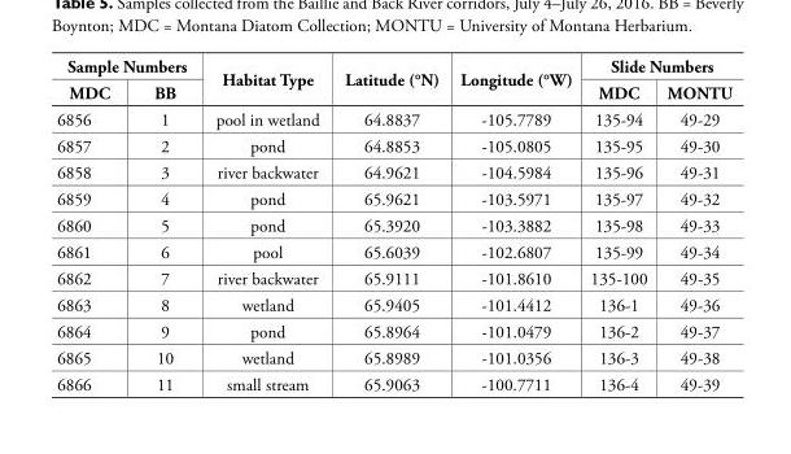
<table><thead><tr><td colspan="2">Sample Numbers</td><td rowspan="2">Habitat Type</td><td rowspan="2">Latitude (°N)</td><td rowspan="2">Longitude (°W)</td><td colspan="2">Slide Numbers</td></tr><tr><td>MDC</td><td>BB</td><td>MDC</td><td>MONTU</td></tr></thead><tbody><tr><td>6856</td><td>1</td><td>pool in wetland</td><td colspan="2">64.8837 -105.7789</td><td>135-94</td><td>49-29</td></tr><tr><td>6857</td><td>2</td><td>pond</td><td colspan="2">64.8853 -105.0805</td><td>135-95</td><td>49-30</td></tr><tr><td>6858</td><td>3</td><td>river backwater</td><td colspan="2">64.9621 -104.5984</td><td>135-96</td><td>49-31</td></tr><tr><td>6859</td><td>4</td><td>pond</td><td colspan="2">65.9621 -103.5971</td><td>135-97</td><td>49-32</td></tr><tr><td>6860</td><td>5</td><td>pond</td><td colspan="2">65.3920 -103.3882</td><td>135-98</td><td>49-33</td></tr><tr><td>6861</td><td>6</td><td>pool</td><td colspan="2">65.6039 -102.6807</td><td>135-99</td><td>49-34</td></tr><tr><td>6862</td><td>7</td><td>river backwater</td><td colspan="2">65.9111 -101.8610</td><td>135-100</td><td>49-35</td></tr><tr><td>6863</td><td>8</td><td>wetland</td><td colspan="2">65.9405 -101.4412</td><td>136-1</td><td>49-36</td></tr><tr><td>6864</td><td>9</td><td>pond</td><td colspan="2">65.8964 -101.0479</td><td>136-2</td><td>49-37</td></tr><tr><td>6865</td><td>10</td><td>wetland</td><td colspan="2">65.8989 -101.0356</td><td>136-3</td><td>49-38</td></tr><tr><td>6866</td><td>11</td><td>small stream</td><td colspan="2">65.9063 -100.7711</td><td>136-4</td><td>49-39</td></tr></tbody></table>